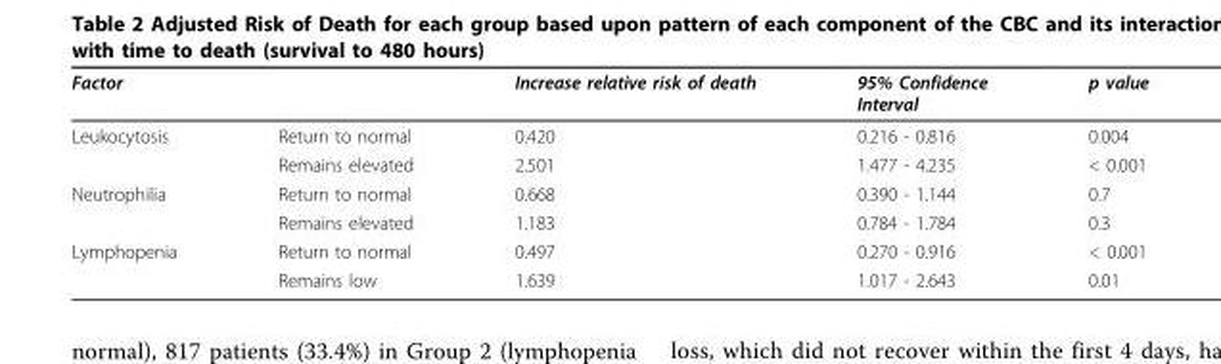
<table><thead><tr><td>Factor</td><td></td><td>Increase relative risk of death</td><td>95% Confidence Interval</td><td>p value</td></tr></thead><tbody><tr><td rowspan="2">Leukocytosis</td><td>Return to normal</td><td>0.420</td><td>0.216 - 0.816</td><td>0.004</td></tr><tr><td>Remains elevated</td><td>2.501</td><td>1.477 - 4.235</td><td>&lt; 0.001</td></tr><tr><td rowspan="2">Neutrophilia</td><td>Return to normal</td><td>0.668</td><td>0.390 - 1.144</td><td>0.7</td></tr><tr><td>Remains elevated</td><td>1.183</td><td>0.784 - 1.784</td><td>0.3</td></tr><tr><td rowspan="2">Lymphopenia</td><td>Return to normal</td><td>0.497</td><td>0.270 - 0.916</td><td>&lt; 0.001</td></tr><tr><td>Remains low</td><td>1.639</td><td>1.017 - 2.643</td><td>0.01</td></tr></tbody></table>